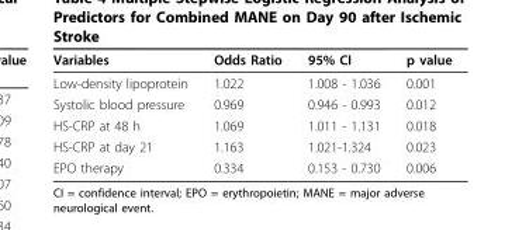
<table><thead><tr><td>Variables</td><td>Odds Ratio</td><td>95% CI</td><td>p value</td></tr></thead><tbody><tr><td>Low-density lipoprotein</td><td>1.022</td><td>1.008 - 1.036</td><td>0.001</td></tr><tr><td>Systolic blood pressure</td><td>0.969</td><td>0.946 - 0.993</td><td>0.012</td></tr><tr><td>HS-CRP at 48 h</td><td>1.069</td><td>1.011 - 1.131</td><td>0.018</td></tr><tr><td>HS-CRP at day 21</td><td>1.163</td><td>1.021-1.324</td><td>0.023</td></tr><tr><td>EPO therapy</td><td>0.334</td><td>0.153 - 0.730</td><td>0.006</td></tr></tbody></table>